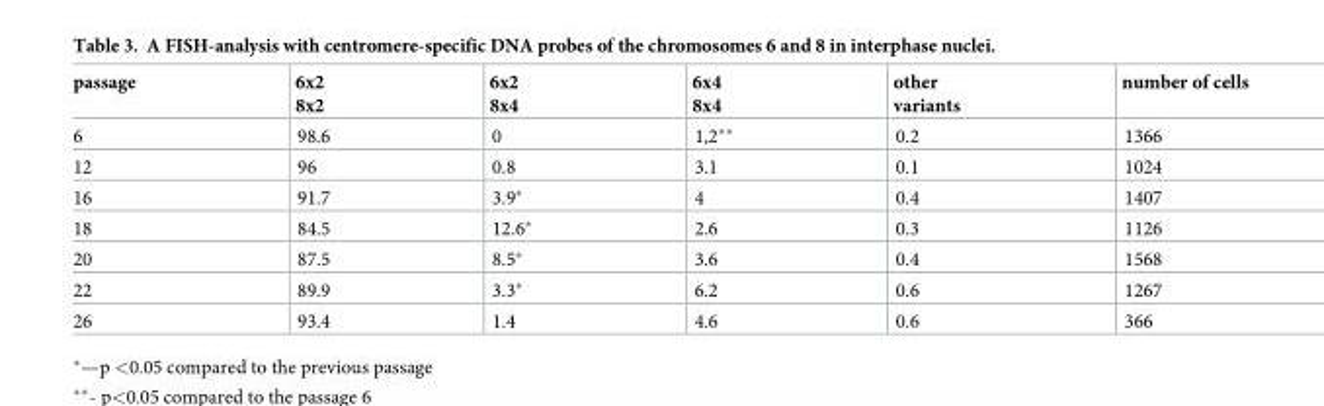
<table><thead><tr><td>passage</td><td>6x2 8x2</td><td>6x2 8x4</td><td>6x4 8x4</td><td>other variants</td><td>number of cells</td></tr></thead><tbody><tr><td>6</td><td>98.6</td><td>0</td><td>1,2**</td><td>0.2</td><td>1366</td></tr><tr><td>12</td><td>96</td><td>0.8</td><td>3.1</td><td>0.1</td><td>1024</td></tr><tr><td>16</td><td>91.7</td><td>3.9*</td><td>4</td><td>0.4</td><td>1407</td></tr><tr><td>18</td><td>84.5</td><td>12.6*</td><td>2.6</td><td>0.3</td><td>1126</td></tr><tr><td>20</td><td>87.5</td><td>8.5*</td><td>3.6</td><td>0.4</td><td>1568</td></tr><tr><td>22</td><td>89.9</td><td>3.3*</td><td>6.2</td><td>0.6</td><td>1267</td></tr><tr><td>26</td><td>93.4</td><td>1.4</td><td>4.6</td><td>0.6</td><td>366</td></tr></tbody></table>